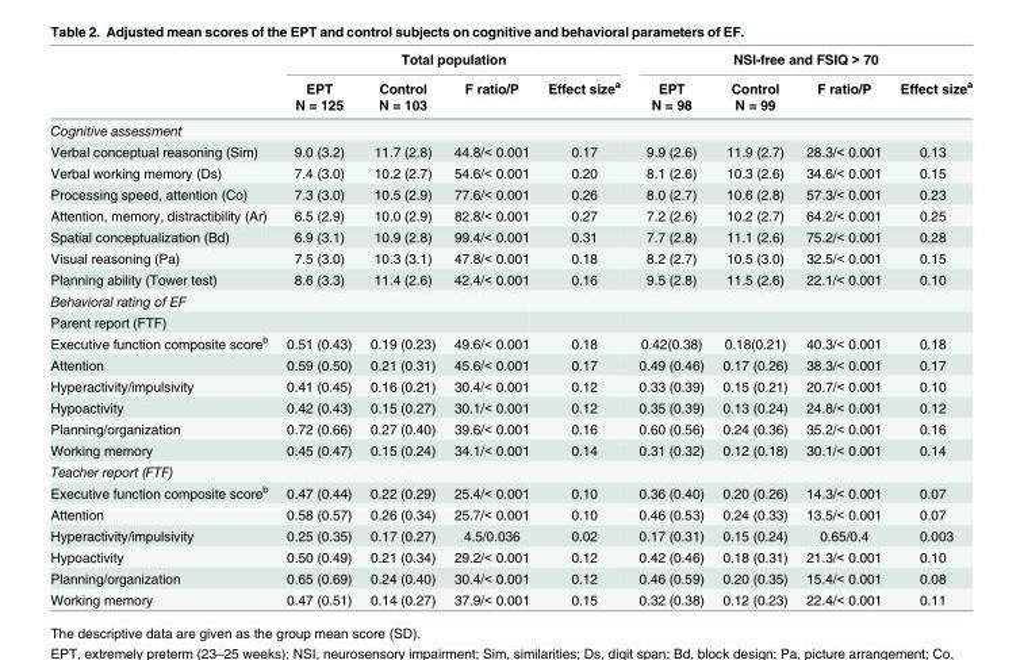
<table><thead><tr><td rowspan="3"></td><td colspan="4">Total population</td><td colspan="4">NSI-free and FSIQ &gt; 70</td></tr><tr><td rowspan="2">EPT N = 125</td><td rowspan="2">Control N = 103</td><td rowspan="2">F ratio/P</td><td rowspan="2">Effect size<sup>a</sup></td><td rowspan="2">EPT N = 98</td><td rowspan="2">Control N = 99</td><td rowspan="2">F ratio/P</td><td rowspan="2">Effect size<sup>a</sup></td></tr><tr></tr></thead><tbody><tr><td colspan="9">Cognitive assessment</td></tr><tr><td>Verbal conceptual reasoning (Sim)</td><td>9.0 (3.2)</td><td>11.7 (2.8)</td><td>44.8/&lt; 0.001</td><td>0.17</td><td>9.9 (2.6)</td><td>11.9 (2.7)</td><td>28.3/&lt; 0.001</td><td>0.13</td></tr><tr><td>Verbal working memory (Ds)</td><td>7.4 (3.0)</td><td>10.2 (2.7)</td><td>54.6/&lt; 0.001</td><td>0.20</td><td>8.1 (2.6)</td><td>10.3 (2.6)</td><td>34.6/&lt; 0.001</td><td>0.15</td></tr><tr><td>Processing speed, attention (Co)</td><td>7.3 (3.0)</td><td>10.5 (2.9)</td><td>77.6/&lt; 0.001</td><td>0.26</td><td>8.0 (2.7)</td><td>10.6 (2.8)</td><td>57.3/&lt; 0.001</td><td>0.23</td></tr><tr><td>Attention, memory, distractibility (Ar)</td><td>6.5 (2.9)</td><td>10.0 (2.9)</td><td>82.8/&lt; 0.001</td><td>0.27</td><td>7.2 (2.6)</td><td>10.2 (2.7)</td><td>64.2/&lt; 0.001</td><td>0.25</td></tr><tr><td>Spatial conceptualization (Bd)</td><td>6.9 (3.1)</td><td>10.9 (2.8)</td><td>99.4/&lt; 0.001</td><td>0.31</td><td>7.7 (2.8)</td><td>11.1 (2.6)</td><td>75.2/&lt; 0.001</td><td>0.28</td></tr><tr><td>Visual reasoning (Pa)</td><td>7.5 (3.0)</td><td>10.3 (3.1)</td><td>47.8/&lt; 0.001</td><td>0.18</td><td>8.2 (2.7)</td><td>10.5 (3.0)</td><td>32.5/&lt; 0.001</td><td>0.15</td></tr><tr><td>Planning ability (Tower test)</td><td>8.6 (3.3)</td><td>11.4 (2.6)</td><td>42.4/&lt; 0.001</td><td>0.16</td><td>9.5 (2.8)</td><td>11.5 (2.6)</td><td>22.1/&lt; 0.001</td><td>0.10</td></tr><tr><td colspan="9">Behavioral rating of EF</td></tr><tr><td colspan="9">Parent report (FTF)</td></tr><tr><td>Executive function composite score<sup>b</sup></td><td>0.51 (0.43)</td><td>0.19 (0.23)</td><td>49.6/&lt; 0.001</td><td>0.18</td><td>0.42(0.38)</td><td>0.18(0.21)</td><td>40.3/&lt; 0.001</td><td>0.18</td></tr><tr><td>Attention</td><td>0.59 (0.50)</td><td>0.21 (0.31)</td><td>45.6/&lt; 0.001</td><td>0.17</td><td>0.49 (0.46)</td><td>0.17 (0.26)</td><td>38.3/&lt; 0.001</td><td>0.17</td></tr><tr><td>Hyperactivity/impulsivity</td><td>0.41 (0.45)</td><td>0.16 (0.21)</td><td>30.4/&lt; 0.001</td><td>0.12</td><td>0.33 (0.39)</td><td>0.15 (0.21)</td><td>20.7/&lt; 0.001</td><td>0.10</td></tr><tr><td>Hypoactivity</td><td>0.42 (0.43)</td><td>0.15 (0.27)</td><td>30.1/&lt; 0.001</td><td>0.12</td><td>0.35 (0.39)</td><td>0.13 (0.24)</td><td>24.8/&lt; 0.001</td><td>0.12</td></tr><tr><td>Planning/organization</td><td>0.72 (0.66)</td><td>0.27 (0.40)</td><td>39.6/&lt; 0.001</td><td>0.16</td><td>0.60 (0.56)</td><td>0.24 (0.36)</td><td>35.2/&lt; 0.001</td><td>0.16</td></tr><tr><td>Working memory</td><td>0.45 (0.47)</td><td>0.15 (0.24)</td><td>34.1/&lt; 0.001</td><td>0.14</td><td>0.31 (0.32)</td><td>0.12 (0.18)</td><td>30.1/&lt; 0.001</td><td>0.14</td></tr><tr><td colspan="9">Teacher report (FTF)</td></tr><tr><td>Executive function composite score<sup>b</sup></td><td>0.47 (0.44)</td><td>0.22 (0.29)</td><td>25.4/&lt; 0.001</td><td>0.10</td><td>0.36 (0.40)</td><td>0.20 (0.26)</td><td>14.3/&lt; 0.001</td><td>0.07</td></tr><tr><td>Attention</td><td>0.58 (0.57)</td><td>0.26 (0.34)</td><td>25.7/&lt; 0.001</td><td>0.10</td><td>0.46 (0.53)</td><td>0.24 (0.33)</td><td>13.5/&lt; 0.001</td><td>0.07</td></tr><tr><td>Hyperactivity/impulsivity</td><td>0.25 (0.35)</td><td>0.17 (0.27)</td><td>4.5/0.036</td><td>0.02</td><td>0.17 (0.31)</td><td>0.15 (0.24)</td><td>0.65/0.4</td><td>0.003</td></tr><tr><td>Hypoactivity</td><td>0.50 (0.49)</td><td>0.21 (0.34)</td><td>29.2/&lt; 0.001</td><td>0.12</td><td>0.42 (0.46)</td><td>0.18 (0.31)</td><td>21.3/&lt; 0.001</td><td>0.10</td></tr><tr><td>Planning/organization</td><td>0.65 (0.69)</td><td>0.24 (0.40)</td><td>30.4/&lt; 0.001</td><td>0.12</td><td>0.46 (0.59)</td><td>0.20 (0.35)</td><td>15.4/&lt; 0.001</td><td>0.08</td></tr><tr><td>Working memory</td><td>0.47 (0.51)</td><td>0.14 (0.27)</td><td>37.9/&lt; 0.001</td><td>0.15</td><td>0.32 (0.38)</td><td>0.12 (0.23)</td><td>22.4/&lt; 0.001</td><td>0.11</td></tr></tbody></table>